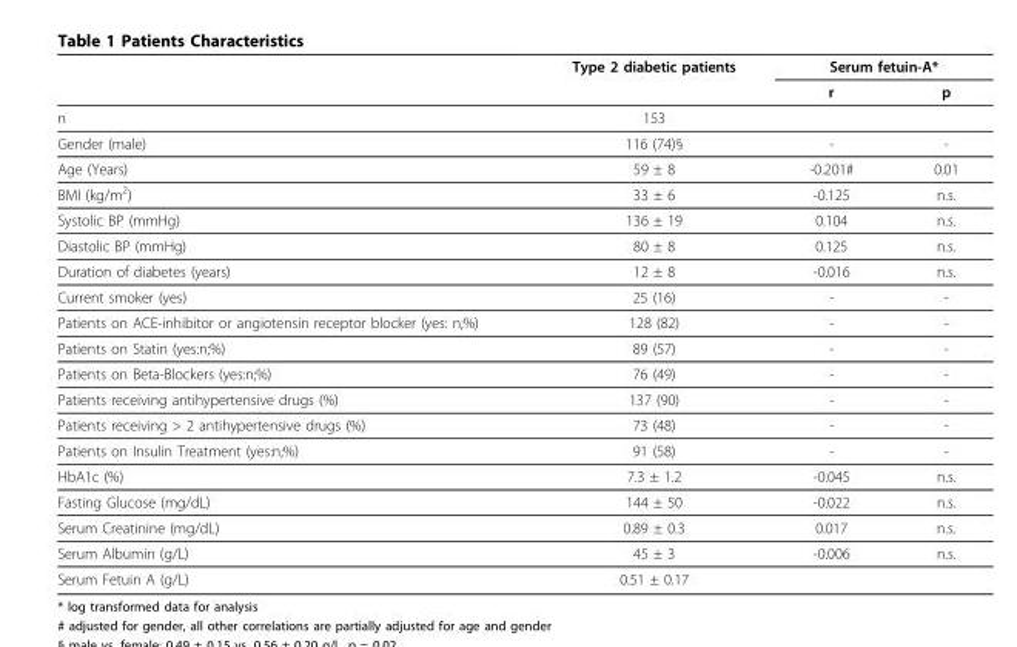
<table><thead><tr><td rowspan="2"></td><td rowspan="2">Type 2 diabetic patients</td><td colspan="2">Serum fetuin-A*</td></tr><tr><td>r</td><td>p</td></tr></thead><tbody><tr><td>n</td><td>153</td><td></td><td></td></tr><tr><td>Gender (male)</td><td>116 (74)§</td><td>-</td><td>-</td></tr><tr><td>Age (Years)</td><td>59 ± 8</td><td>-0.201#</td><td>0.01</td></tr><tr><td>BMI (kg/m<sup>2</sup>)</td><td>33 ± 6</td><td>-0.125</td><td>n.s.</td></tr><tr><td>Systolic BP (mmHg)</td><td>136 ± 19</td><td>0.104</td><td>n.s.</td></tr><tr><td>Diastolic BP (mmHg)</td><td>80 ± 8</td><td>0.125</td><td>n.s.</td></tr><tr><td>Duration of diabetes (years)</td><td>12 ± 8</td><td>-0.016</td><td>n.s.</td></tr><tr><td>Current smoker (yes)</td><td>25 (16)</td><td>-</td><td>-</td></tr><tr><td>Patients on ACE-inhibitor or angiotensin receptor blocker (yes: n;%)</td><td>128 (82)</td><td>-</td><td>-</td></tr><tr><td>Patients on Statin (yes:n;%)</td><td>89 (57)</td><td>-</td><td>-</td></tr><tr><td>Patients on Beta-Blockers (yes:n;%)</td><td>76 (49)</td><td>-</td><td>-</td></tr><tr><td>Patients receiving antihypertensive drugs (%)</td><td>137 (90)</td><td>-</td><td>-</td></tr><tr><td>Patients receiving &gt; 2 antihypertensive drugs (%)</td><td>73 (48)</td><td>-</td><td>-</td></tr><tr><td>Patients on Insulin Treatment (yes:n;%)</td><td>91 (58)</td><td>-</td><td>-</td></tr><tr><td>HbA1c (%)</td><td>7.3 ± 1.2</td><td>-0.045</td><td>n.s.</td></tr><tr><td>Fasting Glucose (mg/dL)</td><td>144 ± 50</td><td>-0.022</td><td>n.s.</td></tr><tr><td>Serum Creatinine (mg/dL)</td><td>0.89 ± 0.3</td><td>0.017</td><td>n.s.</td></tr><tr><td>Serum Albumin (g/L)</td><td>45 ± 3</td><td>-0.006</td><td>n.s.</td></tr><tr><td>Serum Fetuin A (g/L)</td><td>0.51 ± 0.17</td><td></td><td></td></tr></tbody></table>